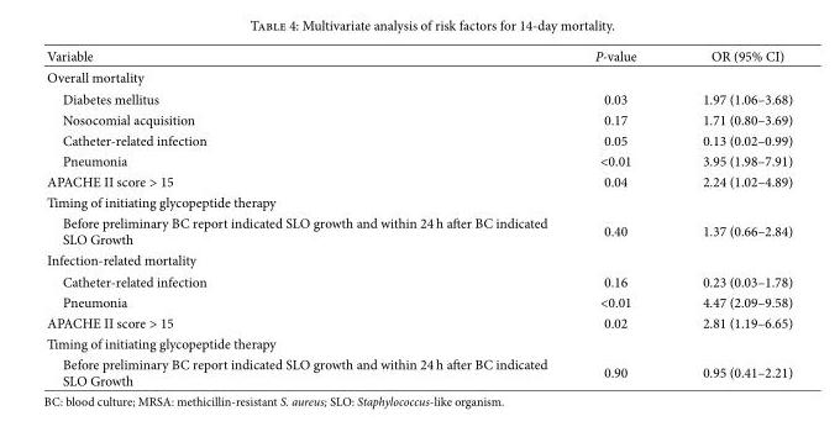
<table><thead><tr><td>Variable</td><td>P-value</td><td>OR (95% CI)</td></tr></thead><tbody><tr><td colspan="3">Overall mortality</td></tr><tr><td>Diabetes mellitus</td><td>0.03</td><td>1.97 (1.06–3.68)</td></tr><tr><td>Nosocomial acquisition</td><td>0.17</td><td>1.71 (0.80–3.69)</td></tr><tr><td>Catheter-related infection</td><td>0.05</td><td>0.13 (0.02–0.99)</td></tr><tr><td>Pneumonia</td><td>&lt;0.01</td><td>3.95 (1.98–7.91)</td></tr><tr><td>APACHE II score &gt; 15</td><td>0.04</td><td>2.24 (1.02–4.89)</td></tr><tr><td colspan="3">Timing of initiating glycopeptide therapy</td></tr><tr><td>Before preliminary BC report indicated SLO growth and within 24 h aer BC indicated SLO Growth</td><td>0.40</td><td>1.37 (0.66–2.84)</td></tr><tr><td colspan="3">Infection-related mortality</td></tr><tr><td>Catheter-related infection</td><td>0.16</td><td>0.23 (0.03–1.78)</td></tr><tr><td>Pneumonia</td><td>&lt;0.01</td><td>4.47 (2.09–9.58)</td></tr><tr><td>APACHE II score &gt; 15</td><td>0.02</td><td>2.81 (1.19–6.65)</td></tr><tr><td colspan="3">Timing of initiating glycopeptide therapy</td></tr><tr><td>Before preliminary BC report indicated SLO growth and within 24 h aer BC indicated SLO Growth</td><td>0.90</td><td>0.95 (0.41–2.21)</td></tr></tbody></table>